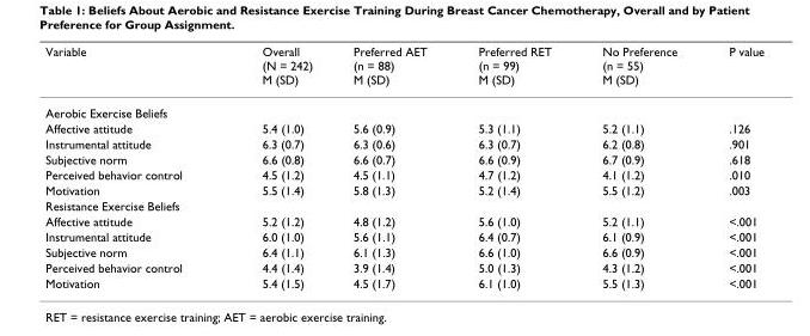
<table><thead><tr><td>Variable</td><td>Overall (N = 242) M (SD)</td><td>Preferred AET (n = 88) M (SD)</td><td>Preferred RET (n = 99) M (SD)</td><td>No Preference (n = 55) M (SD)</td><td>P value</td></tr></thead><tbody><tr><td colspan="6">Aerobic Exercise Beliefs</td></tr><tr><td>Affective attitude</td><td>5.4 (1.0)</td><td>5.6 (0.9)</td><td>5.3 (1.1)</td><td>5.2 (1.1)</td><td>.126</td></tr><tr><td>Instrumental attitude</td><td>6.3 (0.7)</td><td>6.3 (0.6)</td><td>6.3 (0.7)</td><td>6.2 (0.8)</td><td>.901</td></tr><tr><td>Subjective norm</td><td>6.6 (0.8)</td><td>6.6 (0.7)</td><td>6.6 (0.9)</td><td>6.7 (0.9)</td><td>.618</td></tr><tr><td>Perceived behavior control</td><td>4.5 (1.2)</td><td>4.5 (1.1)</td><td>4.7 (1.2)</td><td>4.1 (1.2)</td><td>.010</td></tr><tr><td>Motivation</td><td>5.5 (1.4)</td><td>5.8 (1.3)</td><td>5.2 (1.4)</td><td>5.5 (1.2)</td><td>.003</td></tr><tr><td colspan="6">Resistance Exercise Beliefs</td></tr><tr><td>Affective attitude</td><td>5.2 (1.2)</td><td>4.8 (1.2)</td><td>5.6 (1.0)</td><td>5.2 (1.1)</td><td>&lt;.001</td></tr><tr><td>Instrumental attitude</td><td>6.0 (1.0)</td><td>5.6 (1.1)</td><td>6.4 (0.7)</td><td>6.1 (0.9)</td><td>&lt;.001</td></tr><tr><td>Subjective norm</td><td>6.4 (1.1)</td><td>6.1 (1.3)</td><td>6.6 (1.0)</td><td>6.6 (0.9)</td><td>&lt;.001</td></tr><tr><td>Perceived behavior control</td><td>4.4 (1.4)</td><td>3.9 (1.4)</td><td>5.0 (1.3)</td><td>4.3 (1.2)</td><td>&lt;.001</td></tr><tr><td>Motivation</td><td>5.4 (1.5)</td><td>4.5 (1.7)</td><td>6.1 (1.0)</td><td>5.5 (1.3)</td><td>&lt;.001</td></tr></tbody></table>